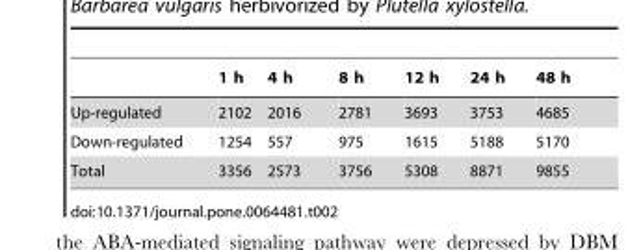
<table><thead><tr><td></td><td>1 h</td><td>4 h</td><td>8 h</td><td>12 h</td><td>24 h</td><td>48 h</td></tr></thead><tbody><tr><td>Up-regulated</td><td>2102</td><td>2016</td><td>2781</td><td>3693</td><td>3753</td><td>4685</td></tr><tr><td>Down-regulated</td><td>1254</td><td>557</td><td>975</td><td>1615</td><td>5188</td><td>5170</td></tr><tr><td>Total</td><td>3356</td><td>2573</td><td>3756</td><td>5308</td><td>8871</td><td>9855</td></tr></tbody></table>